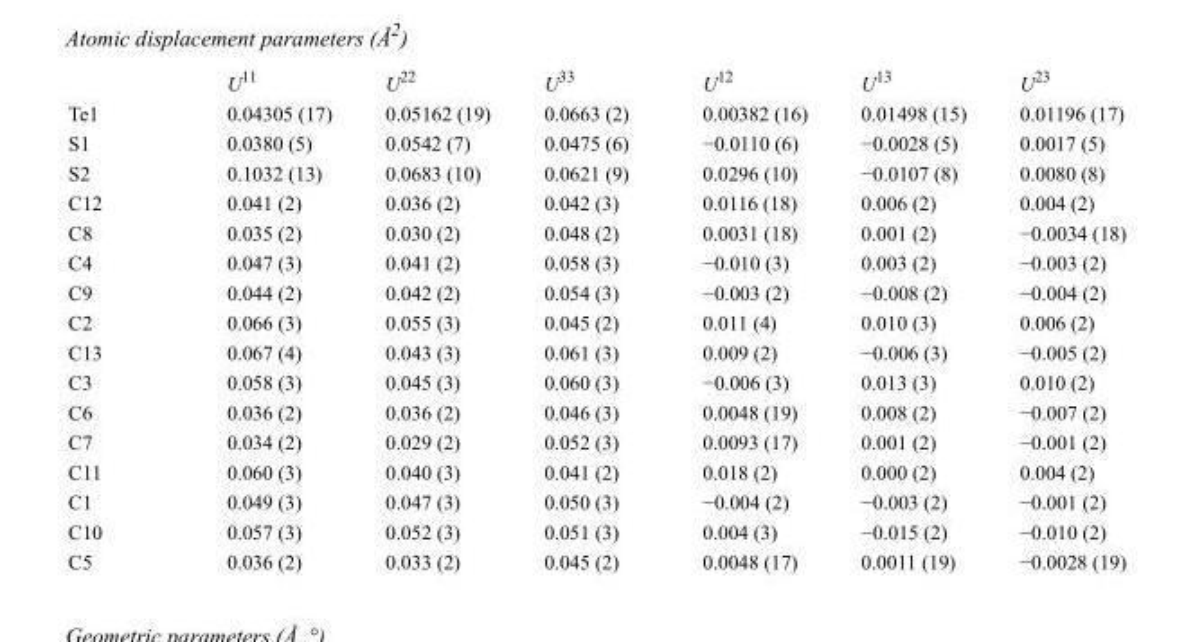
<table><thead><tr><td></td><td>U<sup>11</sup></td><td>U<sup>22</sup></td><td>U<sup>33</sup></td><td>U<sup>12</sup></td><td>U<sup>13</sup></td><td>U<sup>23</sup></td></tr></thead><tbody><tr><td>Te1</td><td>0.04305 (17)</td><td>0.05162 (19)</td><td>0.0663 (2)</td><td>0.00382 (16)</td><td>0.01498 (15)</td><td>0.01196 (17)</td></tr><tr><td>S1</td><td>0.0380 (5)</td><td>0.0542 (7)</td><td>0.0475 (6)</td><td>−0.0110 (6)</td><td>−0.0028 (5)</td><td>0.0017 (5)</td></tr><tr><td>S2</td><td>0.1032 (13)</td><td>0.0683 (10)</td><td>0.0621 (9)</td><td>0.0296 (10)</td><td>−0.0107 (8)</td><td>0.0080 (8)</td></tr><tr><td>C12</td><td>0.041 (2)</td><td>0.036 (2)</td><td>0.042 (3)</td><td>0.0116 (18)</td><td>0.006 (2)</td><td>0.004 (2)</td></tr><tr><td>C8</td><td>0.035 (2)</td><td>0.030 (2)</td><td>0.048 (2)</td><td>0.0031 (18)</td><td>0.001 (2)</td><td>−0.0034 (18)</td></tr><tr><td>C4</td><td>0.047 (3)</td><td>0.041 (2)</td><td>0.058 (3)</td><td>−0.010 (3)</td><td>0.003 (2)</td><td>−0.003 (2)</td></tr><tr><td>C9</td><td>0.044 (2)</td><td>0.042 (2)</td><td>0.054 (3)</td><td>−0.003 (2)</td><td>−0.008 (2)</td><td>−0.004 (2)</td></tr><tr><td>C2</td><td>0.066 (3)</td><td>0.055 (3)</td><td>0.045 (2)</td><td>0.011 (4)</td><td>0.010 (3)</td><td>0.006 (2)</td></tr><tr><td>C13</td><td>0.067 (4)</td><td>0.043 (3)</td><td>0.061 (3)</td><td>0.009 (2)</td><td>−0.006 (3)</td><td>−0.005 (2)</td></tr><tr><td>C3</td><td>0.058 (3)</td><td>0.045 (3)</td><td>0.060 (3)</td><td>−0.006 (3)</td><td>0.013 (3)</td><td>0.010 (2)</td></tr><tr><td>C6</td><td>0.036 (2)</td><td>0.036 (2)</td><td>0.046 (3)</td><td>0.0048 (19)</td><td>0.008 (2)</td><td>−0.007 (2)</td></tr><tr><td>C7</td><td>0.034 (2)</td><td>0.029 (2)</td><td>0.052 (3)</td><td>0.0093 (17)</td><td>0.001 (2)</td><td>−0.001 (2)</td></tr><tr><td>C11</td><td>0.060 (3)</td><td>0.040 (3)</td><td>0.041 (2)</td><td>0.018 (2)</td><td>0.000 (2)</td><td>0.004 (2)</td></tr><tr><td>C1</td><td>0.049 (3)</td><td>0.047 (3)</td><td>0.050 (3)</td><td>−0.004 (2)</td><td>−0.003 (2)</td><td>−0.001 (2)</td></tr><tr><td>C10</td><td>0.057 (3)</td><td>0.052 (3)</td><td>0.051 (3)</td><td>0.004 (3)</td><td>−0.015 (2)</td><td>−0.010 (2)</td></tr><tr><td>C5</td><td>0.036 (2)</td><td>0.033 (2)</td><td>0.045 (2)</td><td>0.0048 (17)</td><td>0.0011 (19)</td><td>−0.0028 (19)</td></tr></tbody></table>